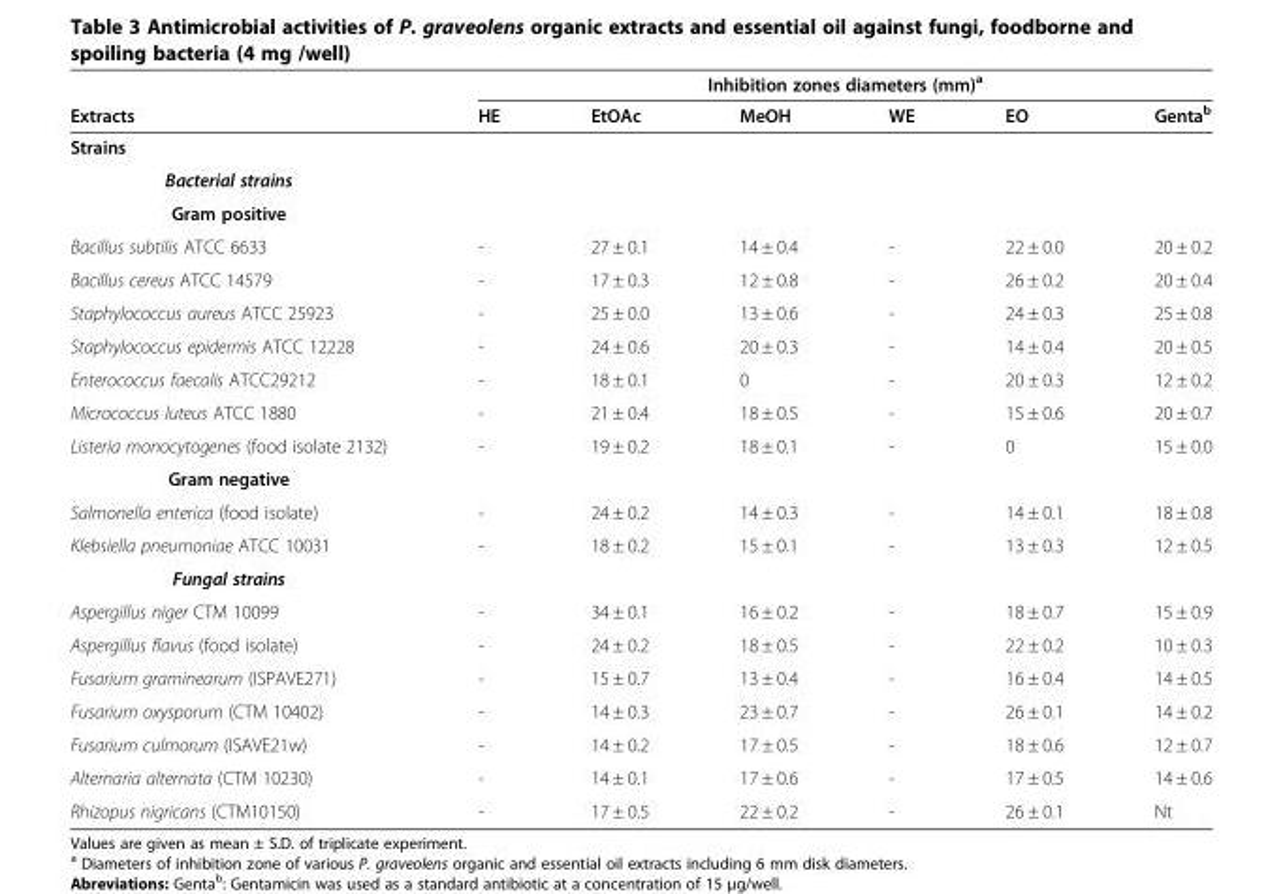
<table><thead><tr><td rowspan="2">Extracts</td><td colspan="6">Inhibition zones diameters (mm)<sup>a</sup></td></tr><tr><td>HE</td><td>EtOAc</td><td>MeOH</td><td>WE</td><td>EO</td><td>Genta<sup>b</sup></td></tr></thead><tbody><tr><td colspan="7">Strains</td></tr><tr><td colspan="7">Bacterial strains</td></tr><tr><td colspan="7">Gram positive</td></tr><tr><td>Bacillus subtilis ATCC 6633</td><td>-</td><td>27 ± 0.1</td><td>14 ± 0.4</td><td>-</td><td>22 ± 0.0</td><td>20 ± 0.2</td></tr><tr><td>Bacillus cereus ATCC 14579</td><td>-</td><td>17 ± 0.3</td><td>12 ± 0.8</td><td>-</td><td>26 ± 0.2</td><td>20 ± 0.4</td></tr><tr><td>Staphylococcus aureus ATCC 25923</td><td>-</td><td>25 ± 0.0</td><td>13 ± 0.6</td><td>-</td><td>24 ± 0.3</td><td>25 ± 0.8</td></tr><tr><td>Staphylococcus epidermis ATCC 12228</td><td>-</td><td>24 ± 0.6</td><td>20 ± 0.3</td><td>-</td><td>14 ± 0.4</td><td>20 ± 0.5</td></tr><tr><td>Enterococcus faecalis ATCC29212</td><td>-</td><td>18 ± 0.1</td><td>0</td><td>-</td><td>20 ± 0.3</td><td>12 ± 0.2</td></tr><tr><td>Micrococcus luteus ATCC 1880</td><td>-</td><td>21 ± 0.4</td><td>18 ± 0.5</td><td>-</td><td>15 ± 0.6</td><td>20 ± 0.7</td></tr><tr><td>Listeria monocytogenes (food isolate 2132)</td><td>-</td><td>19 ± 0.2</td><td>18 ± 0.1</td><td>-</td><td>0</td><td>15 ± 0.0</td></tr><tr><td colspan="7">Gram negative</td></tr><tr><td>Salmonella enterica (food isolate)</td><td>-</td><td>24 ± 0.2</td><td>14 ± 0.3</td><td>-</td><td>14 ± 0.1</td><td>18 ± 0.8</td></tr><tr><td>Klebsiella pneumoniae ATCC 10031</td><td>-</td><td>18 ± 0.2</td><td>15 ± 0.1</td><td>-</td><td>13 ± 0.3</td><td>12 ± 0.5</td></tr><tr><td colspan="7">Fungal strains</td></tr><tr><td>Aspergillus niger CTM 10099</td><td>-</td><td>34 ± 0.1</td><td>16 ± 0.2</td><td>-</td><td>18 ± 0.7</td><td>15 ± 0.9</td></tr><tr><td>Aspergillus flavus (food isolate)</td><td>-</td><td>24 ± 0.2</td><td>18 ± 0.5</td><td>-</td><td>22 ± 0.2</td><td>10 ± 0.3</td></tr><tr><td>Fusarium graminearum (ISPAVE271)</td><td>-</td><td>15 ± 0.7</td><td>13 ± 0.4</td><td>-</td><td>16 ± 0.4</td><td>14 ± 0.5</td></tr><tr><td>Fusarium oxysporum (CTM 10402)</td><td>-</td><td>14 ± 0.3</td><td>23 ± 0.7</td><td>-</td><td>26 ± 0.1</td><td>14 ± 0.2</td></tr><tr><td>Fusarium culmorum (ISAVE21w)</td><td>-</td><td>14 ± 0.2</td><td>17 ± 0.5</td><td>-</td><td>18 ± 0.6</td><td>12 ± 0.7</td></tr><tr><td>Alternaria alternata (CTM 10230)</td><td>-</td><td>14 ± 0.1</td><td>17 ± 0.6</td><td>-</td><td>17 ± 0.5</td><td>14 ± 0.6</td></tr><tr><td>Rhizopus nigricans (CTM10150)</td><td>-</td><td>17 ± 0.5</td><td>22 ± 0.2</td><td>-</td><td>26 ± 0.1</td><td>Nt</td></tr></tbody></table>